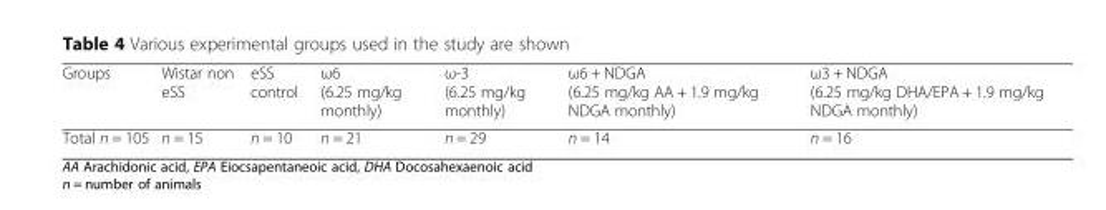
<table><thead><tr><td>Groups</td><td>Wistar non eSS</td><td>eSS control</td><td>ω6 (6.25 mg/kg monthly)</td><td>ω-3 (6.25 mg/kg monthly)</td><td>ω6 + NDGA (6.25 mg/kg AA + 1.9 mg/kg NDGA monthly)</td><td>ω3 + NDGA (6.25 mg/kg DHA/EPA + 1.9 mg/kg NDGA monthly)</td></tr></thead><tbody><tr><td>Total n = 105</td><td>n = 15</td><td>n = 10</td><td>n = 21</td><td>n = 29</td><td>n = 14</td><td>n = 16</td></tr></tbody></table>